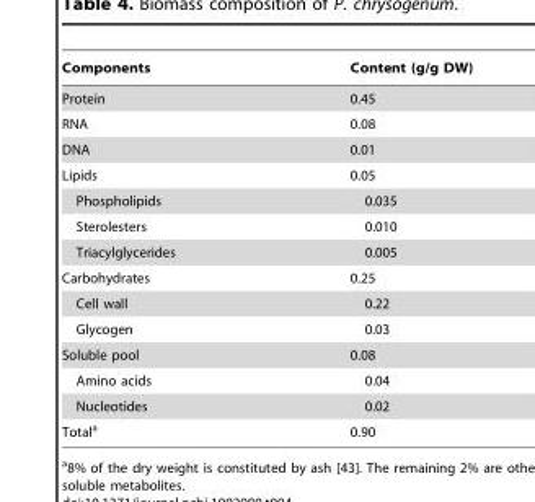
<table><thead><tr><td>Components</td><td>Content (g/g DW)</td></tr></thead><tbody><tr><td>Protein</td><td>0.45</td></tr><tr><td>RNA</td><td>0.08</td></tr><tr><td>DNA</td><td>0.01</td></tr><tr><td>Lipids</td><td>0.05</td></tr><tr><td>Phospholipids</td><td>0.035</td></tr><tr><td>Sterolesters</td><td>0.010</td></tr><tr><td>Triacylglycerides</td><td>0.005</td></tr><tr><td>Carbohydrates</td><td>0.25</td></tr><tr><td>Cell wall</td><td>0.22</td></tr><tr><td>Glycogen</td><td>0.03</td></tr><tr><td>Soluble pool</td><td>0.08</td></tr><tr><td>Amino acids</td><td>0.04</td></tr><tr><td>Nucleotides</td><td>0.02</td></tr><tr><td>Total<sup>a</sup></td><td>0.90</td></tr></tbody></table>